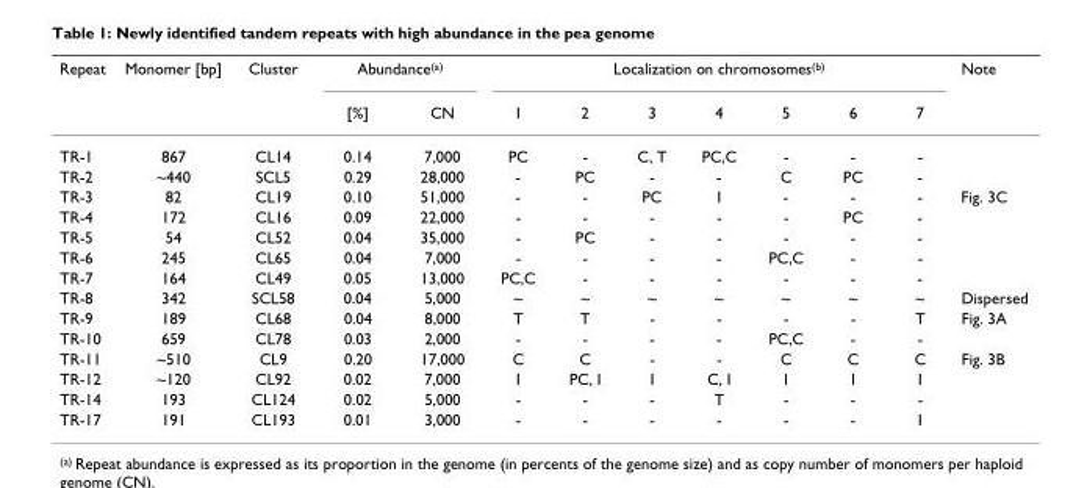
<table><thead><tr><td rowspan="2">Repeat</td><td rowspan="2">Monomer [bp]</td><td rowspan="2">Cluster</td><td colspan="2">Abundance<sup>(a)</sup></td><td colspan="7">Localization on chromosomes<sup>(b)</sup></td><td rowspan="2">Note</td></tr><tr><td>[%]</td><td>CN</td><td>1</td><td>2</td><td>3</td><td>4</td><td>5</td><td>6</td><td>7</td></tr></thead><tbody><tr><td>TR-1</td><td>867</td><td>CL14</td><td>0.14</td><td>7,000</td><td>PC</td><td>-</td><td>C, T</td><td>PC,C</td><td>-</td><td>-</td><td>-</td><td></td></tr><tr><td>TR-2</td><td>~440</td><td>SCL5</td><td>0.29</td><td>28,000</td><td>-</td><td>PC</td><td>-</td><td>-</td><td>C</td><td>PC</td><td>-</td><td></td></tr><tr><td>TR-3</td><td>82</td><td>CL19</td><td>0.10</td><td>51,000</td><td>-</td><td>-</td><td>PC</td><td>I</td><td>-</td><td>-</td><td>-</td><td>Fig. 3C</td></tr><tr><td>TR-4</td><td>172</td><td>CL16</td><td>0.09</td><td>22,000</td><td>-</td><td>-</td><td>-</td><td>-</td><td>-</td><td>PC</td><td>-</td><td></td></tr><tr><td>TR-5</td><td>54</td><td>CL52</td><td>0.04</td><td>35,000</td><td>-</td><td>PC</td><td>-</td><td>-</td><td>-</td><td>-</td><td>-</td><td></td></tr><tr><td>TR-6</td><td>245</td><td>CL65</td><td>0.04</td><td>7,000</td><td>-</td><td>-</td><td>-</td><td>-</td><td>PC,C</td><td>-</td><td>-</td><td></td></tr><tr><td>TR-7</td><td>164</td><td>CL49</td><td>0.05</td><td>13,000</td><td>PC,C</td><td>-</td><td>-</td><td>-</td><td>-</td><td>-</td><td>-</td><td></td></tr><tr><td>TR-8</td><td>342</td><td>SCL58</td><td>0.04</td><td>5,000</td><td>~</td><td>~</td><td>~</td><td>~</td><td>~</td><td>~</td><td>~</td><td>Dispersed</td></tr><tr><td>TR-9</td><td>189</td><td>CL68</td><td>0.04</td><td>8,000</td><td>T</td><td>T</td><td>-</td><td>-</td><td>-</td><td>-</td><td>T</td><td>Fig. 3A</td></tr><tr><td>TR-10</td><td>659</td><td>CL78</td><td>0.03</td><td>2,000</td><td>-</td><td>-</td><td>-</td><td>-</td><td>PC,C</td><td>-</td><td>-</td><td></td></tr><tr><td>TR-11</td><td>~510</td><td>CL9</td><td>0.20</td><td>17,000</td><td>C</td><td>C</td><td>-</td><td>-</td><td>C</td><td>C</td><td>C</td><td>Fig. 3B</td></tr><tr><td>TR-12</td><td>~120</td><td>CL92</td><td>0.02</td><td>7,000</td><td>I</td><td>PC, I</td><td>I</td><td>C, I</td><td>I</td><td>I</td><td>I</td><td></td></tr><tr><td>TR-14</td><td>193</td><td>CL124</td><td>0.02</td><td>5,000</td><td>-</td><td>-</td><td>-</td><td>T</td><td>-</td><td>-</td><td>-</td><td></td></tr><tr><td>TR-17</td><td>191</td><td>CL193</td><td>0.01</td><td>3,000</td><td>-</td><td>-</td><td>-</td><td>-</td><td>-</td><td>-</td><td>I</td><td></td></tr></tbody></table>